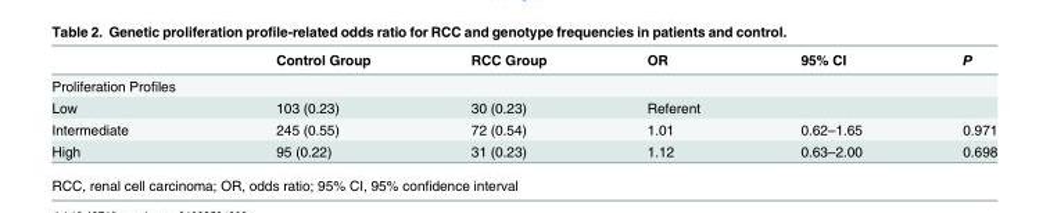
<table><thead><tr><td></td><td>Control Group</td><td>RCC Group</td><td>OR</td><td>95% CI</td><td>P</td></tr></thead><tbody><tr><td colspan="6">Proliferation Profiles</td></tr><tr><td>Low</td><td>103 (0.23)</td><td>30 (0.23)</td><td>Referent</td><td></td><td></td></tr><tr><td>Intermediate</td><td>245 (0.55)</td><td>72 (0.54)</td><td>1.01</td><td>0.62–1.65</td><td>0.971</td></tr><tr><td>High</td><td>95 (0.22)</td><td>31 (0.23)</td><td>1.12</td><td>0.63–2.00</td><td>0.698</td></tr></tbody></table>